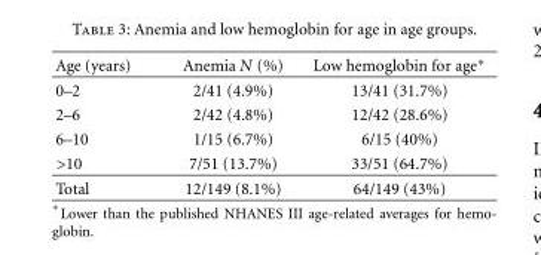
<table><thead><tr><td>Age (years)</td><td>Anemia N (%)</td><td>Low hemoglobin for age∗</td></tr></thead><tbody><tr><td>0–2</td><td>2/41 (4.9%)</td><td>13/41 (31.7%)</td></tr><tr><td>2–6</td><td>2/42 (4.8%)</td><td>12/42 (28.6%)</td></tr><tr><td>6–10</td><td>1/15 (6.7%)</td><td>6/15 (40%)</td></tr><tr><td>&gt;10</td><td>7/51 (13.7%)</td><td>33/51 (64.7%)</td></tr><tr><td>Total</td><td>12/149 (8.1%)</td><td>64/149 (43%)</td></tr></tbody></table>